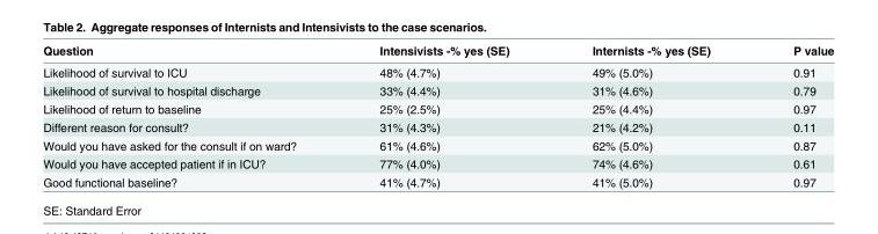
<table><thead><tr><td>Question</td><td>Intensivists -% yes (SE)</td><td>Internists -% yes (SE)</td><td>P value</td></tr></thead><tbody><tr><td>Likelihood of survival to ICU</td><td>48% (4.7%)</td><td>49% (5.0%)</td><td>0.91</td></tr><tr><td>Likelihood of survival to hospital discharge</td><td>33% (4.4%)</td><td>31% (4.6%)</td><td>0.79</td></tr><tr><td>Likelihood of return to baseline</td><td>25% (2.5%)</td><td>25% (4.4%)</td><td>0.97</td></tr><tr><td>Different reason for consult?</td><td>31% (4.3%)</td><td>21% (4.2%)</td><td>0.11</td></tr><tr><td>Would you have asked for the consult if on ward?</td><td>61% (4.6%)</td><td>62% (5.0%)</td><td>0.87</td></tr><tr><td>Would you have accepted patient if in ICU?</td><td>77% (4.0%)</td><td>74% (4.6%)</td><td>0.61</td></tr><tr><td>Good functional baseline?</td><td>41% (4.7%)</td><td>41% (5.0%)</td><td>0.97</td></tr></tbody></table>